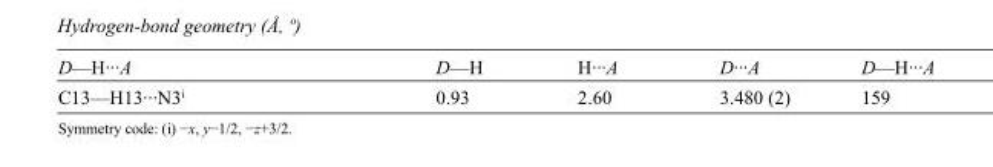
<table><tbody><tr><td>D—H···A</td><td>D—H</td><td>H···A</td><td>D···A</td><td>D—H···A</td></tr><tr><td>C13—H13···N3<sup>i</sup></td><td>0.93</td><td>2.60</td><td>3.480 (2)</td><td>159</td></tr></tbody></table>